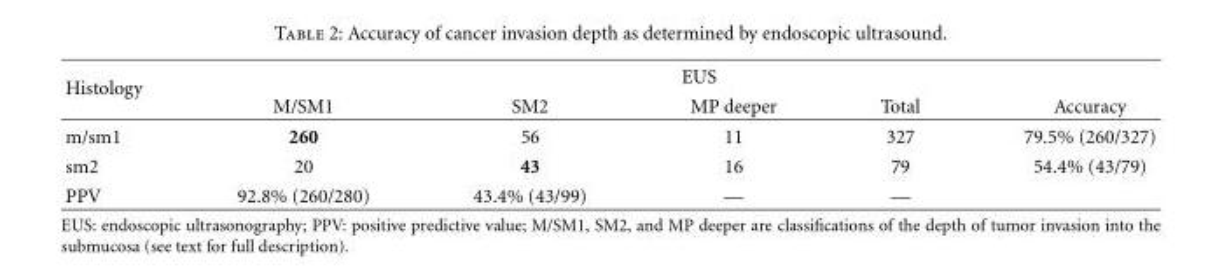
<table><thead><tr><td rowspan="2">Histology</td><td colspan="5">EUS</td></tr><tr><td>M/SM1</td><td>SM2</td><td>MP deeper</td><td>Total</td><td>Accuracy</td></tr></thead><tbody><tr><td>m/sm1</td><td>260</td><td>56</td><td>11</td><td>327</td><td>79.5% (260/327)</td></tr><tr><td>sm2</td><td>20</td><td>43</td><td>16</td><td>79</td><td>54.4% (43/79)</td></tr><tr><td>PPV</td><td>92.8% (260/280)</td><td>43.4% (43/99)</td><td>—</td><td>—</td><td></td></tr></tbody></table>